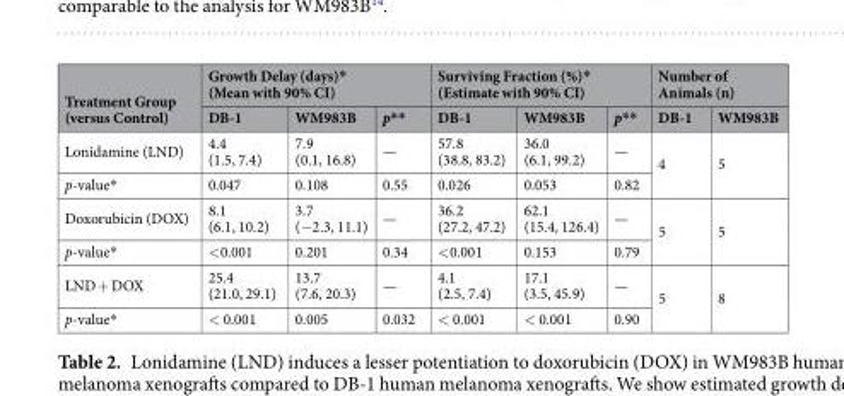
<table><thead><tr><td rowspan="2">Treatment Group (versus Control)</td><td colspan="3">Growth Delay (days)* (Mean with 90% CI)</td><td colspan="3">Surviving Fraction (%)* (Estimate with 90% CI)</td><td colspan="2">Number of Animals (n)</td></tr><tr><td>DB-1</td><td>WM983B</td><td>p**</td><td>DB-1</td><td>WM983B</td><td>p**</td><td>DB-1</td><td>WM983B</td></tr></thead><tbody><tr><td>Lonidamine (LND)</td><td>4.4 (1.5, 7.4)</td><td>7.9 (0.1, 16.8)</td><td>—</td><td>57.8 (38.8, 83.2)</td><td>36.0 (6.1, 99.2)</td><td>—</td><td rowspan="2">4</td><td rowspan="2">5</td></tr><tr><td>p-value*</td><td>0.047</td><td>0.108</td><td>0.55</td><td>0.026</td><td>0.053</td><td>0.82</td></tr><tr><td>Doxorubicin (DOX)</td><td>8.1 (6.1, 10.2)</td><td>3.7 (−2.3, 11.1)</td><td>—</td><td>36.2 (27.2, 47.2)</td><td>62.1 (15.4, 126.4)</td><td>—</td><td rowspan="2">5</td><td rowspan="2">5</td></tr><tr><td>p-value*</td><td>&lt;0.001</td><td>0.201</td><td>0.34</td><td>&lt;0.001</td><td>0.153</td><td>0.79</td></tr><tr><td>LND + DOX</td><td>25.4 (21.0, 29.1)</td><td>13.7 (7.6, 20.3)</td><td>—</td><td>4.1 (2.5, 7.4)</td><td>17.1 (3.5, 45.9)</td><td>—</td><td rowspan="2">5</td><td rowspan="2">8</td></tr><tr><td>p-value*</td><td>&lt; 0.001</td><td>0.005</td><td>0.032</td><td>&lt; 0.001</td><td>&lt; 0.001</td><td>0.90</td></tr></tbody></table>